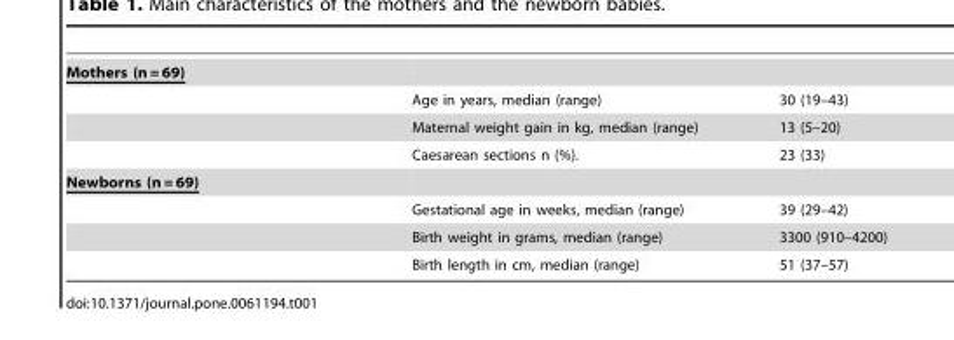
<table><tbody><tr><td colspan="3">Mothers (n = 69)</td></tr><tr><td></td><td>Age in years, median (range)</td><td>30 (19–43)</td></tr><tr><td></td><td>Maternal weight gain in kg, median (range)</td><td>13 (5–20)</td></tr><tr><td></td><td>Caesarean sections n (%).</td><td>23 (33)</td></tr><tr><td colspan="3">Newborns (n = 69)</td></tr><tr><td></td><td>Gestational age in weeks, median (range)</td><td>39 (29–42)</td></tr><tr><td></td><td>Birth weight in grams, median (range)</td><td>3300 (910–4200)</td></tr><tr><td></td><td>Birth length in cm, median (range)</td><td>51 (37–57)</td></tr></tbody></table>